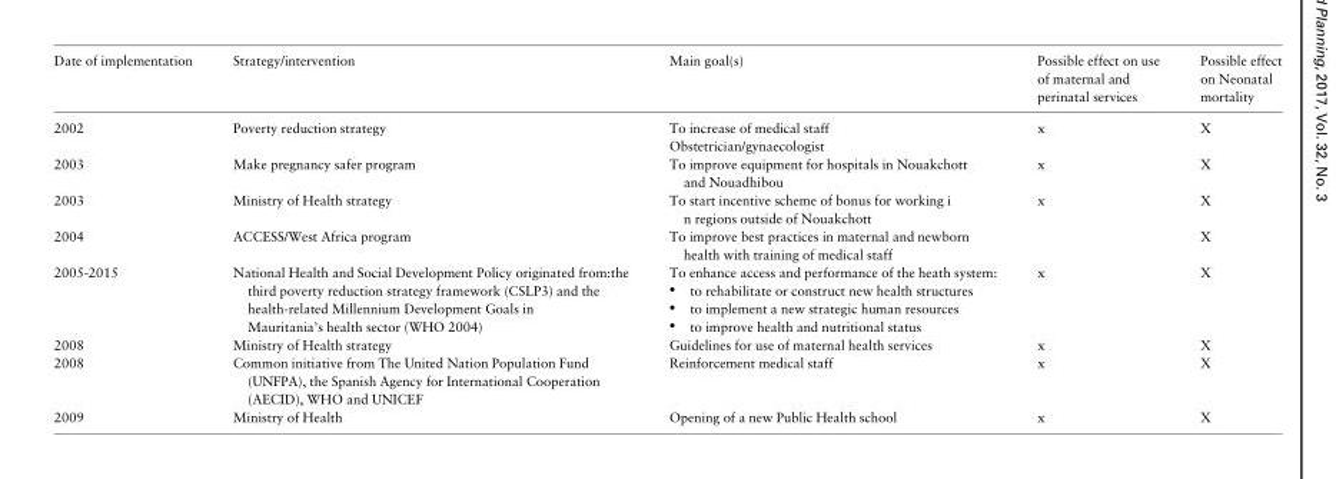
<table><thead><tr><td>Date of implementation</td><td>Strategy/intervention</td><td>Main goal(s)</td><td>Possible effect on use of maternal and perinatal services</td><td>Possible effect on Neonatal mortality</td></tr></thead><tbody><tr><td rowspan="2">2002</td><td rowspan="2">Poverty reduction strategy</td><td>To increase of medical staff</td><td rowspan="2">x</td><td rowspan="2">X</td></tr><tr><td>Obstetrician/gynaecologist</td></tr><tr><td>2003</td><td>Make pregnancy safer program</td><td>To improve equipment for hospitals in Nouakchott and Nouadhibou</td><td>x</td><td>X</td></tr><tr><td>2003</td><td>Ministry of Health strategy</td><td>To start incentive scheme of bonus for working i n regions outside of Nouakchott</td><td>x</td><td>X</td></tr><tr><td>2004</td><td>ACCESS/West Africa program</td><td>To improve best practices in maternal and newborn health with training of medical staff</td><td></td><td>X</td></tr><tr><td>2005-2015</td><td>National Health and Social Development Policy originated from:the third poverty reduction strategy framework (CSLP3) and the health-related Millennium Development Goals in Mauritania’s health sector (WHO 2004)</td><td>To enhance access and performance of the heath system: • to rehabilitate or construct new health structures • to implement a new strategic human resources • to improve health and nutritional status</td><td>x</td><td>X</td></tr><tr><td>2008</td><td>Ministry of Health strategy</td><td>Guidelines for use of maternal health services</td><td>x</td><td>X</td></tr><tr><td>2008</td><td>Common initiative from The United Nation Population Fund (UNFPA), the Spanish Agency for International Cooperation (AECID), WHO and UNICEF</td><td>Reinforcement medical staff</td><td>x</td><td>X</td></tr><tr><td>2009</td><td>Ministry of Health</td><td>Opening of a new Public Health school</td><td>x</td><td>X</td></tr></tbody></table>